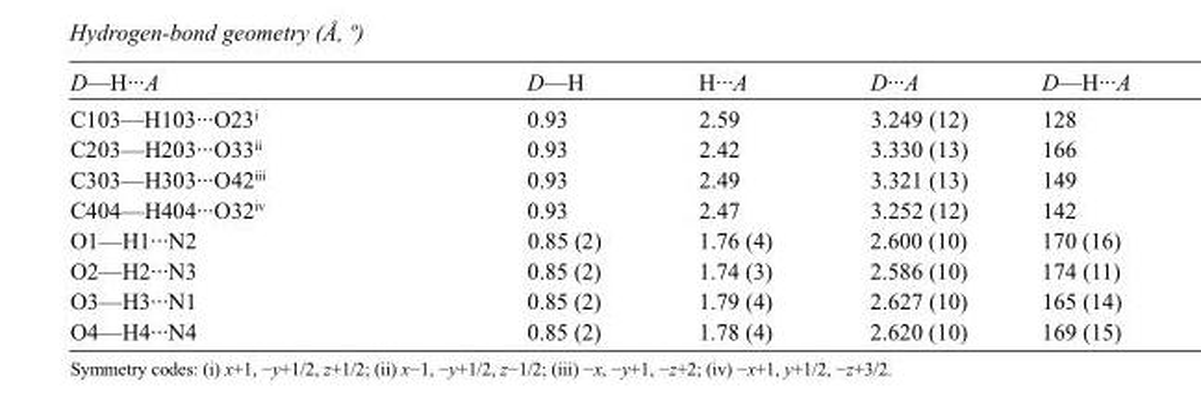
<table><tbody><tr><td>D—H···A</td><td>D—H</td><td>H···A</td><td>D···A</td><td>D—H···A</td></tr><tr><td>C103—H103···O23<sup>i</sup></td><td>0.93</td><td>2.59</td><td>3.249 (12)</td><td>128</td></tr><tr><td>C203—H203···O33<sup>ii</sup></td><td>0.93</td><td>2.42</td><td>3.330 (13)</td><td>166</td></tr><tr><td>C303—H303···O42<sup>iii</sup></td><td>0.93</td><td>2.49</td><td>3.321 (13)</td><td>149</td></tr><tr><td>C404—H404···O32<sup>iv</sup></td><td>0.93</td><td>2.47</td><td>3.252 (12)</td><td>142</td></tr><tr><td>O1—H1···N2</td><td>0.85 (2)</td><td>1.76 (4)</td><td>2.600 (10)</td><td>170 (16)</td></tr><tr><td>O2—H2···N3</td><td>0.85 (2)</td><td>1.74 (3)</td><td>2.586 (10)</td><td>174 (11)</td></tr><tr><td>O3—H3···N1</td><td>0.85 (2)</td><td>1.79 (4)</td><td>2.627 (10)</td><td>165 (14)</td></tr><tr><td>O4—H4···N4</td><td>0.85 (2)</td><td>1.78 (4)</td><td>2.620 (10)</td><td>169 (15)</td></tr></tbody></table>